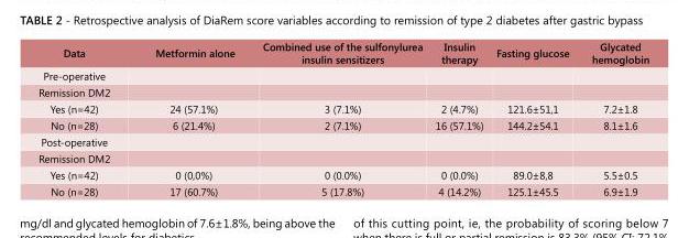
<table><thead><tr><td>Data</td><td>Metformin alone</td><td>Combined use of the sulfonylurea insulin sensitizers</td><td>Insulin therapy</td><td>Fasting glucose</td><td>Glycated hemoglobin</td></tr></thead><tbody><tr><td colspan="6">Pre-operative</td></tr><tr><td colspan="6">Remission DM2</td></tr><tr><td>Yes (n=42)</td><td>24 (57.1%)</td><td>3 (7.1%)</td><td>2 (4.7%)</td><td>121.6±51,1</td><td>7.2±1.8</td></tr><tr><td>No (n=28)</td><td>6 (21.4%)</td><td>2 (7.1%)</td><td>16 (57.1%)</td><td>144.2±54.1</td><td>8.1±1.6</td></tr><tr><td colspan="6">Post-operative</td></tr><tr><td colspan="6">Remission DM2</td></tr><tr><td>Yes (n=42)</td><td>0 (0,0%)</td><td>0 (0.0%)</td><td>0 (0.0%)</td><td>89.0±8,8</td><td>5.5±0.5</td></tr><tr><td>No (n=28)</td><td>17 (60.7%)</td><td>5 (17.8%)</td><td>4 (14.2%)</td><td>125.1±45.5</td><td>6.9±1.9</td></tr></tbody></table>